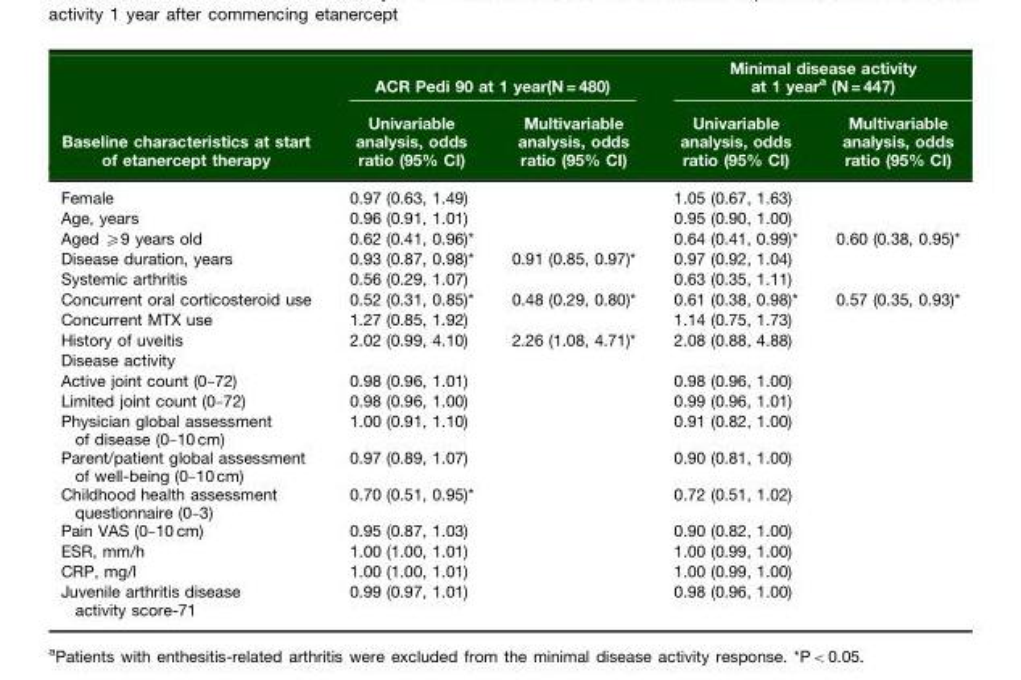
<table><thead><tr><td rowspan="2">Baseline characteristics at start of etanercept therapy</td><td colspan="2">ACR Pedi 90 at 1 year(N = 480)</td><td colspan="2">Minimal disease activity at 1 year<sup>a</sup> (N = 447)</td></tr><tr><td>Univariable analysis, odds ratio (95% CI)</td><td>Multivariable analysis, odds ratio (95% CI)</td><td>Univariable analysis, odds ratio (95% CI)</td><td>Multivariable analysis, odds ratio (95% CI)</td></tr></thead><tbody><tr><td>Female</td><td>0.97 (0.63, 1.49)</td><td></td><td>1.05 (0.67, 1.63)</td><td></td></tr><tr><td>Age, years</td><td>0.96 (0.91, 1.01)</td><td></td><td>0.95 (0.90, 1.00)</td><td></td></tr><tr><td>Aged ≥9 years old</td><td>0.62 (0.41, 0.96)*</td><td></td><td>0.64 (0.41, 0.99)*</td><td>0.60 (0.38, 0.95)*</td></tr><tr><td>Disease duration, years</td><td>0.93 (0.87, 0.98)*</td><td>0.91 (0.85, 0.97)*</td><td>0.97 (0.92, 1.04)</td><td></td></tr><tr><td>Systemic arthritis</td><td>0.56 (0.29, 1.07)</td><td></td><td>0.63 (0.35, 1.11)</td><td></td></tr><tr><td>Concurrent oral corticosteroid use</td><td>0.52 (0.31, 0.85)*</td><td>0.48 (0.29, 0.80)*</td><td>0.61 (0.38, 0.98)*</td><td>0.57 (0.35, 0.93)*</td></tr><tr><td>Concurrent MTX use</td><td>1.27 (0.85, 1.92)</td><td></td><td>1.14 (0.75, 1.73)</td><td></td></tr><tr><td>History of uveitis</td><td>2.02 (0.99, 4.10)</td><td>2.26 (1.08, 4.71)*</td><td>2.08 (0.88, 4.88)</td><td></td></tr><tr><td colspan="5">Disease activity</td></tr><tr><td>Active joint count (0–72)</td><td>0.98 (0.96, 1.01)</td><td></td><td>0.98 (0.96, 1.00)</td><td></td></tr><tr><td>Limited joint count (0–72)</td><td>0.98 (0.96, 1.00)</td><td></td><td>0.99 (0.96, 1.01)</td><td></td></tr><tr><td>Physician global assessment of disease (0–10 cm)</td><td>1.00 (0.91, 1.10)</td><td></td><td>0.91 (0.82, 1.00)</td><td></td></tr><tr><td>Parent/patient global assessment of well-being (0–10 cm)</td><td>0.97 (0.89, 1.07)</td><td></td><td>0.90 (0.81, 1.00)</td><td></td></tr><tr><td>Childhood health assessment questionnaire (0–3)</td><td>0.70 (0.51, 0.95)*</td><td></td><td>0.72 (0.51, 1.02)</td><td></td></tr><tr><td>Pain VAS (0–10 cm)</td><td>0.95 (0.87, 1.03)</td><td></td><td>0.90 (0.82, 1.00)</td><td></td></tr><tr><td>ESR, mm/h</td><td>1.00 (1.00, 1.01)</td><td></td><td>1.00 (0.99, 1.00)</td><td></td></tr><tr><td>CRP, mg/l</td><td>1.00 (1.00, 1.01)</td><td></td><td>1.00 (0.99, 1.00)</td><td></td></tr><tr><td>Juvenile arthritis disease activity score-71</td><td>0.99 (0.97, 1.01)</td><td></td><td>0.98 (0.96, 1.00)</td><td></td></tr></tbody></table>